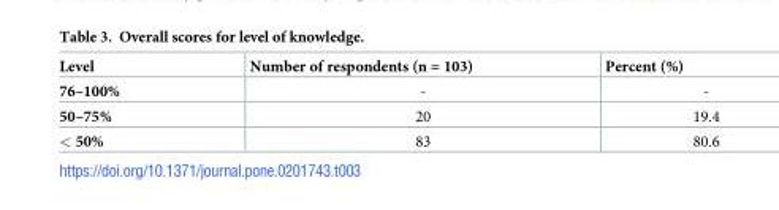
<table><thead><tr><td>Level</td><td>Number of respondents (n = 103)</td><td>Percent (%)</td></tr></thead><tbody><tr><td>76–100%</td><td>-</td><td>-</td></tr><tr><td>50–75%</td><td>20</td><td>19.4</td></tr><tr><td>&lt; 50%</td><td>83</td><td>80.6</td></tr></tbody></table>